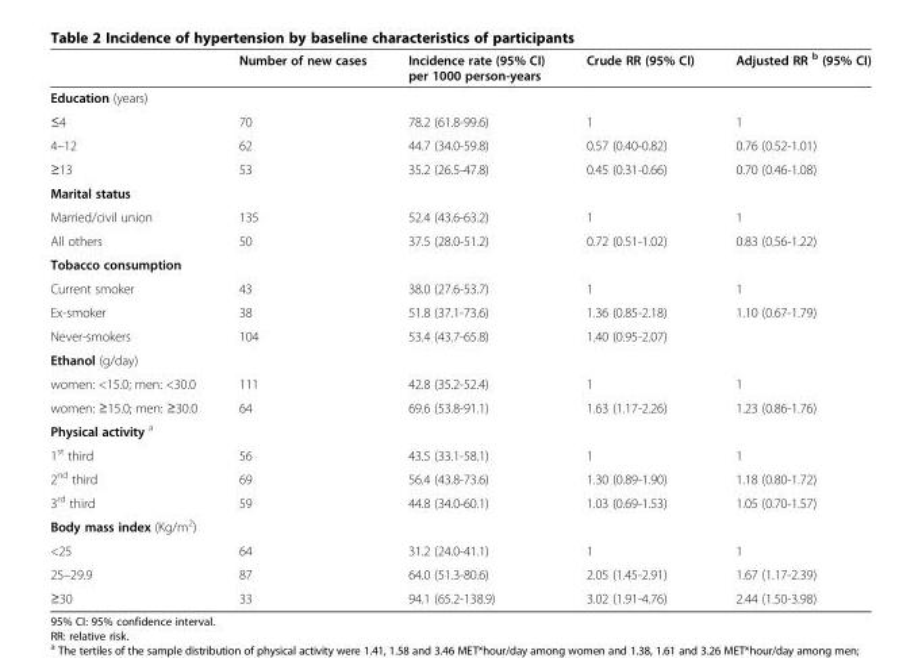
<table><thead><tr><td></td><td>Number of new cases</td><td>Incidence rate (95% CI) per 1000 person-years</td><td>Crude RR (95% CI)</td><td>Adjusted RR <sup>b</sup> (95% CI)</td></tr></thead><tbody><tr><td colspan="5">Education (years)</td></tr><tr><td>≤4</td><td>70</td><td>78.2 (61.8-99.6)</td><td>1</td><td>1</td></tr><tr><td>4–12</td><td>62</td><td>44.7 (34.0-59.8)</td><td>0.57 (0.40-0.82)</td><td>0.76 (0.52-1.01)</td></tr><tr><td>≥13</td><td>53</td><td>35.2 (26.5-47.8)</td><td>0.45 (0.31-0.66)</td><td>0.70 (0.46-1.08)</td></tr><tr><td colspan="5">Marital status</td></tr><tr><td>Married/civil union</td><td>135</td><td>52.4 (43.6-63.2)</td><td>1</td><td>1</td></tr><tr><td>All others</td><td>50</td><td>37.5 (28.0-51.2)</td><td>0.72 (0.51-1.02)</td><td>0.83 (0.56-1.22)</td></tr><tr><td colspan="5">Tobacco consumption</td></tr><tr><td>Current smoker</td><td>43</td><td>38.0 (27.6-53.7)</td><td>1</td><td>1</td></tr><tr><td>Ex-smoker</td><td>38</td><td>51.8 (37.1-73.6)</td><td>1.36 (0.85-2.18)</td><td>1.10 (0.67-1.79)</td></tr><tr><td>Never-smokers</td><td>104</td><td>53.4 (43.7-65.8)</td><td>1.40 (0.95-2.07)</td><td></td></tr><tr><td colspan="5">Ethanol (g/day)</td></tr><tr><td>women: &lt;15.0; men: &lt;30.0</td><td>111</td><td>42.8 (35.2-52.4)</td><td>1</td><td>1</td></tr><tr><td>women: ≥15.0; men: ≥30.0</td><td>64</td><td>69.6 (53.8-91.1)</td><td>1.63 (1.17-2.26)</td><td>1.23 (0.86-1.76)</td></tr><tr><td colspan="5">Physical activity <sup>a</sup></td></tr><tr><td>1<sup>st</sup> third</td><td>56</td><td>43.5 (33.1-58.1)</td><td>1</td><td>1</td></tr><tr><td>2<sup>nd</sup> third</td><td>69</td><td>56.4 (43.8-73.6)</td><td>1.30 (0.89-1.90)</td><td>1.18 (0.80-1.72)</td></tr><tr><td>3<sup>rd</sup> third</td><td>59</td><td>44.8 (34.0-60.1)</td><td>1.03 (0.69-1.53)</td><td>1.05 (0.70-1.57)</td></tr><tr><td colspan="5">Body mass index (Kg/m<sup>2</sup>)</td></tr><tr><td>&lt;25</td><td>64</td><td>31.2 (24.0-41.1)</td><td>1</td><td>1</td></tr><tr><td>25–29.9</td><td>87</td><td>64.0 (51.3-80.6)</td><td>2.05 (1.45-2.91)</td><td>1.67 (1.17-2.39)</td></tr><tr><td>≥30</td><td>33</td><td>94.1 (65.2-138.9)</td><td>3.02 (1.91-4.76)</td><td>2.44 (1.50-3.98)</td></tr></tbody></table>